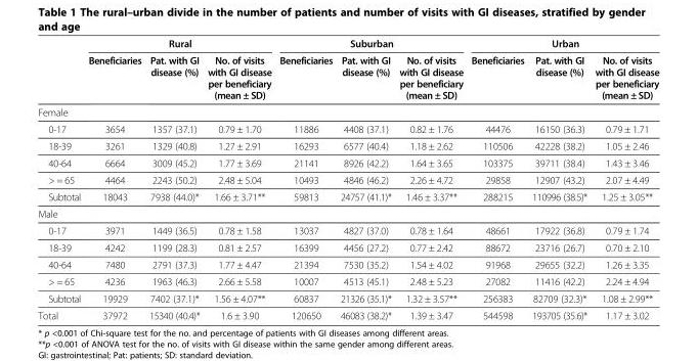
<table><thead><tr><td rowspan="2"></td><td colspan="3">Rural</td><td colspan="3">Suburban</td><td colspan="3">Urban</td></tr><tr><td>Beneficiaries</td><td>Pat. with GI disease (%)</td><td>No. of visits with GI disease per beneficiary (mean ± SD)</td><td>Beneficiaries</td><td>Pat. with GI disease (%)</td><td>No. of visits with GI disease per beneficiary (mean ± SD)</td><td>Beneficiaries</td><td>Pat. with GI disease (%)</td><td>No. of visits with GI disease per beneficiary (mean ± SD)</td></tr></thead><tbody><tr><td colspan="10">Female</td></tr><tr><td>0-17</td><td>3654</td><td>1357 (37.1)</td><td>0.79 ± 1.70</td><td>11886</td><td>4408 (37.1)</td><td>0.82 ± 1.76</td><td>44476</td><td>16150 (36.3)</td><td>0.79 ± 1.71</td></tr><tr><td>18-39</td><td>3261</td><td>1329 (40.8)</td><td>1.27 ± 2.91</td><td>16293</td><td>6577 (40.4)</td><td>1.18 ± 2.62</td><td>110506</td><td>42228 (38.2)</td><td>1.05 ± 2.46</td></tr><tr><td>40-64</td><td>6664</td><td>3009 (45.2)</td><td>1.77 ± 3.69</td><td>21141</td><td>8926 (42.2)</td><td>1.64 ± 3.65</td><td>103375</td><td>39711 (38.4)</td><td>1.43 ± 3.46</td></tr><tr><td>&gt; = 65</td><td>4464</td><td>2243 (50.2)</td><td>2.48 ± 5.04</td><td>10493</td><td>4846 (46.2)</td><td>2.26 ± 4.72</td><td>29858</td><td>12907 (43.2)</td><td>2.07 ± 4.49</td></tr><tr><td>Subtotal</td><td>18043</td><td>7938 (44.0)*</td><td>1.66 ± 3.71**</td><td>59813</td><td>24757 (41.1)*</td><td>1.46 ± 3.37**</td><td>288215</td><td>110996 (38.5)*</td><td>1.25 ± 3.05**</td></tr><tr><td colspan="10">Male</td></tr><tr><td>0-17</td><td>3971</td><td>1449 (36.5)</td><td>0.78 ± 1.58</td><td>13037</td><td>4827 (37.0)</td><td>0.78 ± 1.64</td><td>48661</td><td>17922 (36.8)</td><td>0.79 ± 1.74</td></tr><tr><td>18-39</td><td>4242</td><td>1199 (28.3)</td><td>0.81 ± 2.57</td><td>16399</td><td>4456 (27.2)</td><td>0.77 ± 2.42</td><td>88672</td><td>23716 (26.7)</td><td>0.70 ± 2.10</td></tr><tr><td>40-64</td><td>7480</td><td>2791 (37.3)</td><td>1.77 ± 4.47</td><td>21394</td><td>7530 (35.2)</td><td>1.54 ± 4.02</td><td>91968</td><td>29655 (32.2)</td><td>1.26 ± 3.35</td></tr><tr><td>&gt; = 65</td><td>4236</td><td>1963 (46.3)</td><td>2.66 ± 5.58</td><td>10007</td><td>4513 (45.1)</td><td>2.48 ± 5.23</td><td>27082</td><td>11416 (42.2)</td><td>2.24 ± 4.94</td></tr><tr><td>Subtotal</td><td>19929</td><td>7402 (37.1)*</td><td>1.56 ± 4.07**</td><td>60837</td><td>21326 (35.1)*</td><td>1.32 ± 3.57**</td><td>256383</td><td>82709 (32.3)*</td><td>1.08 ± 2.99**</td></tr><tr><td>Total</td><td>37972</td><td>15340 (40.4)*</td><td>1.6 ± 3.90</td><td>120650</td><td>46083 (38.2)*</td><td>1.39 ± 3.47</td><td>544598</td><td>193705 (35.6)*</td><td>1.17 ± 3.02</td></tr></tbody></table>